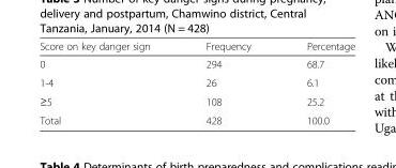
<table><thead><tr><td>Score on key danger sign</td><td>Frequency</td><td>Percentage</td></tr></thead><tbody><tr><td>0</td><td>294</td><td>68.7</td></tr><tr><td>1-4</td><td>26</td><td>6.1</td></tr><tr><td>≥5</td><td>108</td><td>25.2</td></tr><tr><td>Total</td><td>428</td><td>100.0</td></tr></tbody></table>